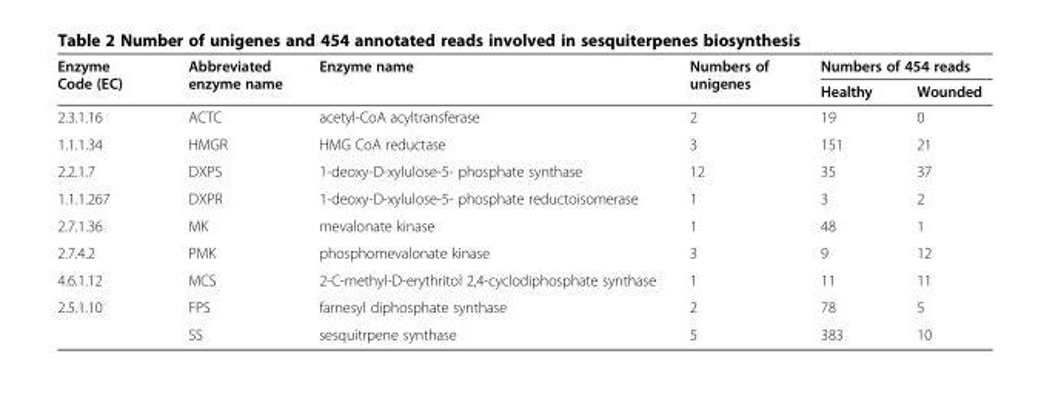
<table><thead><tr><td rowspan="2">Enzyme Code (EC)</td><td rowspan="2">Abbreviated enzyme name</td><td rowspan="2">Enzyme name</td><td rowspan="2">Numbers of unigenes</td><td colspan="2">Numbers of 454 reads</td></tr><tr><td>Healthy</td><td>Wounded</td></tr></thead><tbody><tr><td>2.3.1.16</td><td>ACTC</td><td>acetyl-CoA acyltransferase</td><td>2</td><td>19</td><td>0</td></tr><tr><td>1.1.1.34</td><td>HMGR</td><td>HMG CoA reductase</td><td>3</td><td>151</td><td>21</td></tr><tr><td>2.2.1.7</td><td>DXPS</td><td>1-deoxy-D-xylulose-5- phosphate synthase</td><td>12</td><td>35</td><td>37</td></tr><tr><td>1.1.1.267</td><td>DXPR</td><td>1-deoxy-D-xylulose-5- phosphate reductoisomerase</td><td>1</td><td>3</td><td>2</td></tr><tr><td>2.7.1.36</td><td>MK</td><td>mevalonate kinase</td><td>1</td><td>48</td><td>1</td></tr><tr><td>2.7.4.2</td><td>PMK</td><td>phosphomevalonate kinase</td><td>3</td><td>9</td><td>12</td></tr><tr><td>4.6.1.12</td><td>MCS</td><td>2-C-methyl-D-erythritol 2,4-cyclodiphosphate synthase</td><td>1</td><td>11</td><td>11</td></tr><tr><td rowspan="2">2.5.1.10</td><td>FPS</td><td>farnesyl diphosphate synthase</td><td>2</td><td>78</td><td>5</td></tr><tr><td>SS</td><td>sesquitrpene synthase</td><td>5</td><td>383</td><td>10</td></tr></tbody></table>